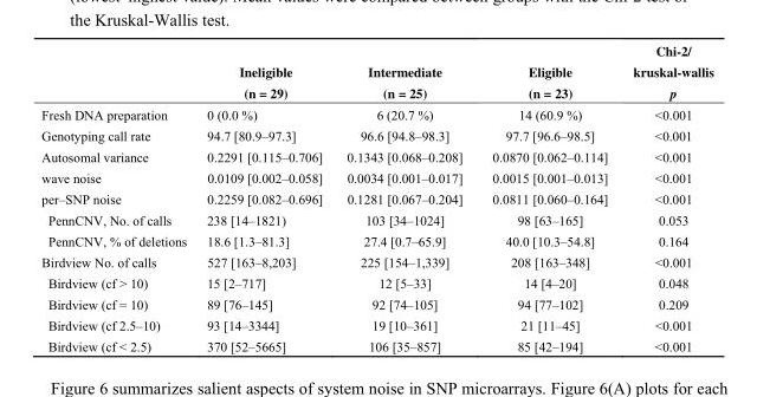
<table><thead><tr><td rowspan="2"></td><td rowspan="2">Ineligible (n = 29)</td><td rowspan="2">Intermediate (n = 25)</td><td rowspan="2">Eligible (n = 23)</td><td rowspan="2">Chi-2/ kruskal-wallis p</td></tr><tr></tr></thead><tbody><tr><td>Fresh DNA preparation</td><td>0 (0.0 %)</td><td>6 (20.7 %)</td><td>14 (60.9 %)</td><td>&lt;0.001</td></tr><tr><td>Genotyping call rate</td><td>94.7 [80.9–97.3]</td><td>96.6 [94.8–98.3]</td><td>97.7 [96.6–98.5]</td><td>&lt;0.001</td></tr><tr><td>Autosomal variance</td><td>0.2291 [0.115–0.706]</td><td>0.1343 [0.068–0.208]</td><td>0.0870 [0.062–0.114]</td><td>&lt;0.001</td></tr><tr><td>wave noise</td><td>0.0109 [0.002–0.058]</td><td>0.0034 [0.001–0.017]</td><td>0.0015 [0.001–0.013]</td><td>&lt;0.001</td></tr><tr><td>per–SNP noise</td><td>0.2259 [0.082–0.696]</td><td>0.1281 [0.067–0.204]</td><td>0.0811 [0.060–0.164]</td><td>&lt;0.001</td></tr><tr><td>PennCNV, No. of calls</td><td>238 [14–1821)</td><td>103 [34–1024]</td><td>98 [63–165]</td><td>0.053</td></tr><tr><td>PennCNV, % of deletions</td><td>18.6 [1.3–81.3]</td><td>27.4 [0.7–65.9]</td><td>40.0 [10.3–54.8]</td><td>0.164</td></tr><tr><td>Birdview No. of calls</td><td>527 [163–8,203]</td><td>225 [154–1,339]</td><td>208 [163–348]</td><td>&lt;0.001</td></tr><tr><td>Birdview (cf &gt; 10)</td><td>15 [2–717]</td><td>12 [5–33]</td><td>14 [4–20]</td><td>0.048</td></tr><tr><td>Birdview (cf = 10)</td><td>89 [76–145]</td><td>92 [74–105]</td><td>94 [77–102]</td><td>0.209</td></tr><tr><td>Birdview (cf 2.5–10)</td><td>93 [14–3344]</td><td>19 [10–361]</td><td>21 [11–45]</td><td>&lt;0.001</td></tr><tr><td>Birdview (cf &lt; 2.5)</td><td>370 [52–5665]</td><td>106 [35–857]</td><td>85 [42–194]</td><td>&lt;0.001</td></tr></tbody></table>